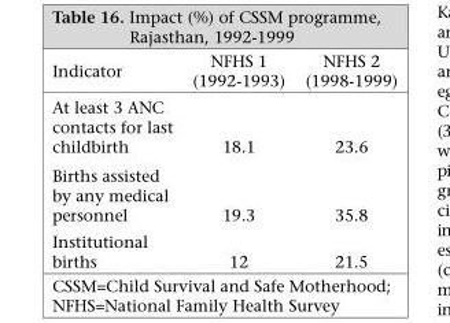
<table><thead><tr><td>Indicator</td><td>NFHS 1 (1992-1993)</td><td>NFHS 2 (1998-1999)</td></tr></thead><tbody><tr><td>At least 3 ANC contacts for last childbirth</td><td>18.1</td><td>23.6</td></tr><tr><td>Births assisted by any medical personnel</td><td>19.3</td><td>35.8</td></tr><tr><td>Institutional births</td><td>12</td><td>21.5</td></tr></tbody></table>